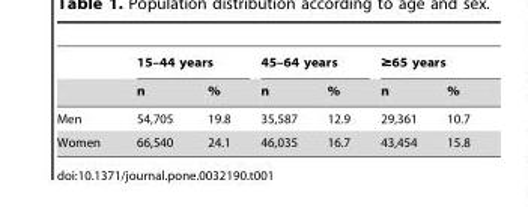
<table><thead><tr><td rowspan="2"></td><td colspan="2">15–44 years</td><td colspan="2">45–64 years</td><td colspan="2">≥65 years</td></tr><tr><td>n</td><td>%</td><td>n</td><td>%</td><td>n</td><td>%</td></tr></thead><tbody><tr><td>Men</td><td>54,705</td><td>19.8</td><td>35,587</td><td>12.9</td><td>29,361</td><td>10.7</td></tr><tr><td>Women</td><td>66,540</td><td>24.1</td><td>46,035</td><td>16.7</td><td>43,454</td><td>15.8</td></tr></tbody></table>